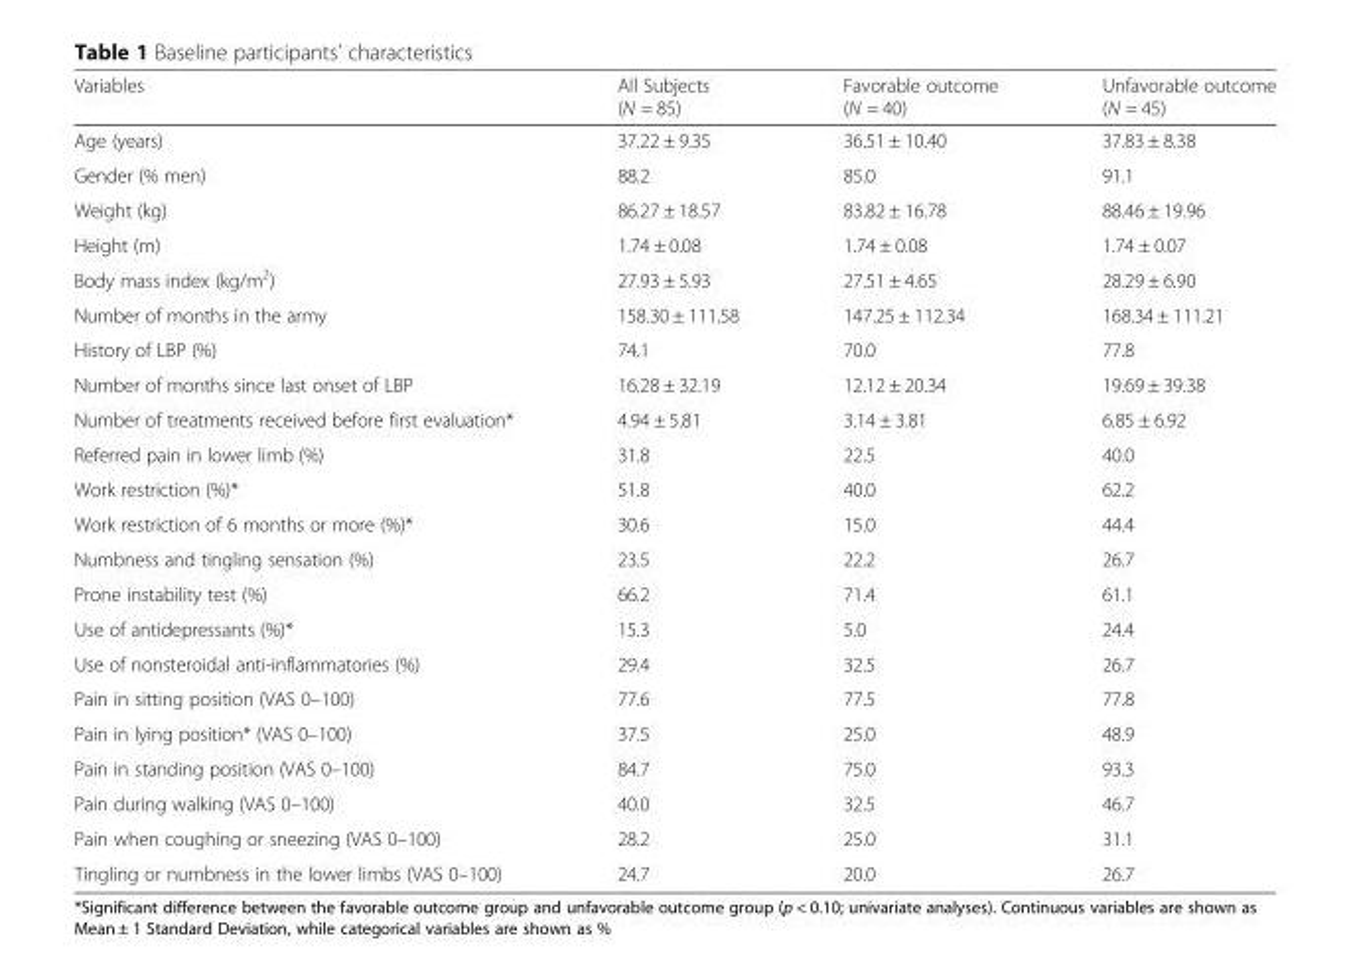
<table><thead><tr><td>Variables</td><td>All Subjects (N = 85)</td><td>Favorable outcome (N = 40)</td><td>Unfavorable outcome (N = 45)</td></tr></thead><tbody><tr><td>Age (years)</td><td>37.22 ± 9.35</td><td>36.51 ± 10.40</td><td>37.83 ± 8.38</td></tr><tr><td>Gender (% men)</td><td>88.2</td><td>85.0</td><td>91.1</td></tr><tr><td>Weight (kg)</td><td>86.27 ± 18.57</td><td>83.82 ± 16.78</td><td>88.46 ± 19.96</td></tr><tr><td>Height (m)</td><td>1.74 ± 0.08</td><td>1.74 ± 0.08</td><td>1.74 ± 0.07</td></tr><tr><td>Body mass index (kg/m<sup>2</sup>)</td><td>27.93 ± 5.93</td><td>27.51 ± 4.65</td><td>28.29 ± 6.90</td></tr><tr><td>Number of months in the army</td><td>158.30 ± 111.58</td><td>147.25 ± 112.34</td><td>168.34 ± 111.21</td></tr><tr><td>History of LBP (%)</td><td>74.1</td><td>70.0</td><td>77.8</td></tr><tr><td>Number of months since last onset of LBP</td><td>16.28 ± 32.19</td><td>12.12 ± 20.34</td><td>19.69 ± 39.38</td></tr><tr><td>Number of treatments received before first evaluation*</td><td>4.94 ± 5.81</td><td>3.14 ± 3.81</td><td>6.85 ± 6.92</td></tr><tr><td>Referred pain in lower limb (%)</td><td>31.8</td><td>22.5</td><td>40.0</td></tr><tr><td>Work restriction (%)*</td><td>51.8</td><td>40.0</td><td>62.2</td></tr><tr><td>Work restriction of 6 months or more (%)*</td><td>30.6</td><td>15.0</td><td>44.4</td></tr><tr><td>Numbness and tingling sensation (%)</td><td>23.5</td><td>22.2</td><td>26.7</td></tr><tr><td>Prone instability test (%)</td><td>66.2</td><td>71.4</td><td>61.1</td></tr><tr><td>Use of antidepressants (%)*</td><td>15.3</td><td>5.0</td><td>24.4</td></tr><tr><td>Use of nonsteroidal anti-inflammatories (%)</td><td>29.4</td><td>32.5</td><td>26.7</td></tr><tr><td>Pain in sitting position (VAS 0–100)</td><td>77.6</td><td>77.5</td><td>77.8</td></tr><tr><td>Pain in lying position* (VAS 0–100)</td><td>37.5</td><td>25.0</td><td>48.9</td></tr><tr><td>Pain in standing position (VAS 0–100)</td><td>84.7</td><td>75.0</td><td>93.3</td></tr><tr><td>Pain during walking (VAS 0–100)</td><td>40.0</td><td>32.5</td><td>46.7</td></tr><tr><td>Pain when coughing or sneezing (VAS 0–100)</td><td>28.2</td><td>25.0</td><td>31.1</td></tr><tr><td>Tingling or numbness in the lower limbs (VAS 0–100)</td><td>24.7</td><td>20.0</td><td>26.7</td></tr></tbody></table>